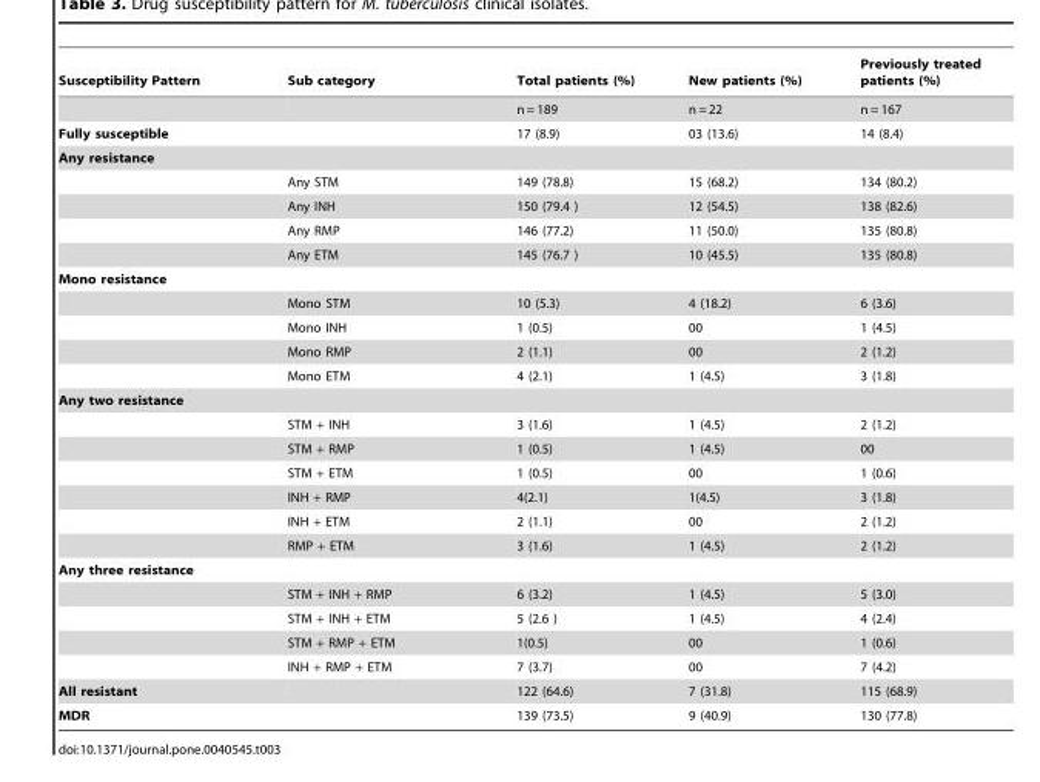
<table><thead><tr><td>Susceptibility Pattern</td><td>Sub category</td><td>Total patients (%)</td><td>New patients (%)</td><td>Previously treated patients (%)</td></tr></thead><tbody><tr><td></td><td></td><td>n = 189</td><td>n = 22</td><td>n = 167</td></tr><tr><td>Fully susceptible</td><td></td><td>17 (8.9)</td><td>03 (13.6)</td><td>14 (8.4)</td></tr><tr><td colspan="5">Any resistance</td></tr><tr><td></td><td>Any STM</td><td>149 (78.8)</td><td>15 (68.2)</td><td>134 (80.2)</td></tr><tr><td></td><td>Any INH</td><td>150 (79.4 )</td><td>12 (54.5)</td><td>138 (82.6)</td></tr><tr><td></td><td>Any RMP</td><td>146 (77.2)</td><td>11 (50.0)</td><td>135 (80.8)</td></tr><tr><td></td><td>Any ETM</td><td>145 (76.7 )</td><td>10 (45.5)</td><td>135 (80.8)</td></tr><tr><td colspan="5">Mono resistance</td></tr><tr><td></td><td>Mono STM</td><td>10 (5.3)</td><td>4 (18.2)</td><td>6 (3.6)</td></tr><tr><td></td><td>Mono INH</td><td>1 (0.5)</td><td>00</td><td>1 (4.5)</td></tr><tr><td></td><td>Mono RMP</td><td>2 (1.1)</td><td>00</td><td>2 (1.2)</td></tr><tr><td></td><td>Mono ETM</td><td>4 (2.1)</td><td>1 (4.5)</td><td>3 (1.8)</td></tr><tr><td colspan="5">Any two resistance</td></tr><tr><td></td><td>STM + INH</td><td>3 (1.6)</td><td>1 (4.5)</td><td>2 (1.2)</td></tr><tr><td></td><td>STM + RMP</td><td>1 (0.5)</td><td>1 (4.5)</td><td>00</td></tr><tr><td></td><td>STM + ETM</td><td>1 (0.5)</td><td>00</td><td>1 (0.6)</td></tr><tr><td></td><td>INH + RMP</td><td>4(2.1)</td><td>1(4.5)</td><td>3 (1.8)</td></tr><tr><td></td><td>INH + ETM</td><td>2 (1.1)</td><td>00</td><td>2 (1.2)</td></tr><tr><td></td><td>RMP + ETM</td><td>3 (1.6)</td><td>1 (4.5)</td><td>2 (1.2)</td></tr><tr><td colspan="5">Any three resistance</td></tr><tr><td></td><td>STM + INH + RMP</td><td>6 (3.2)</td><td>1 (4.5)</td><td>5 (3.0)</td></tr><tr><td></td><td>STM + INH + ETM</td><td>5 (2.6 )</td><td>1 (4.5)</td><td>4 (2.4)</td></tr><tr><td></td><td>STM + RMP + ETM</td><td>1(0.5)</td><td>00</td><td>1 (0.6)</td></tr><tr><td></td><td>INH + RMP + ETM</td><td>7 (3.7)</td><td>00</td><td>7 (4.2)</td></tr><tr><td>All resistant</td><td></td><td>122 (64.6)</td><td>7 (31.8)</td><td>115 (68.9)</td></tr><tr><td>MDR</td><td></td><td>139 (73.5)</td><td>9 (40.9)</td><td>130 (77.8)</td></tr></tbody></table>